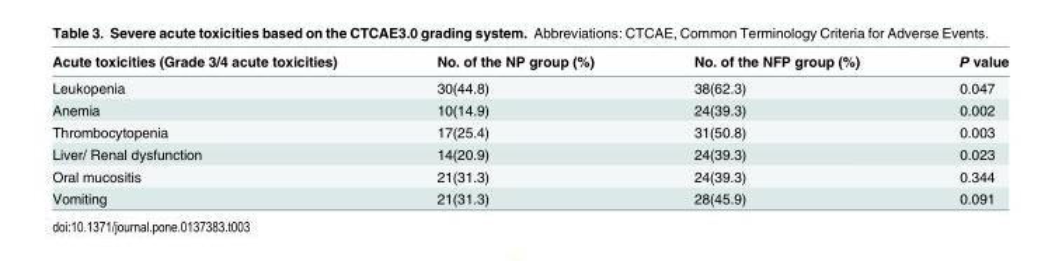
<table><thead><tr><td>Acute toxicities (Grade 3/4 acute toxicities)</td><td>No. of the NP group (%)</td><td>No. of the NFP group (%)</td><td>P value</td></tr></thead><tbody><tr><td>Leukopenia</td><td>30(44.8)</td><td>38(62.3)</td><td>0.047</td></tr><tr><td>Anemia</td><td>10(14.9)</td><td>24(39.3)</td><td>0.002</td></tr><tr><td>Thrombocytopenia</td><td>17(25.4)</td><td>31(50.8)</td><td>0.003</td></tr><tr><td>Liver/ Renal dysfunction</td><td>14(20.9)</td><td>24(39.3)</td><td>0.023</td></tr><tr><td>Oral mucositis</td><td>21(31.3)</td><td>24(39.3)</td><td>0.344</td></tr><tr><td>Vomiting</td><td>21(31.3)</td><td>28(45.9)</td><td>0.091</td></tr></tbody></table>